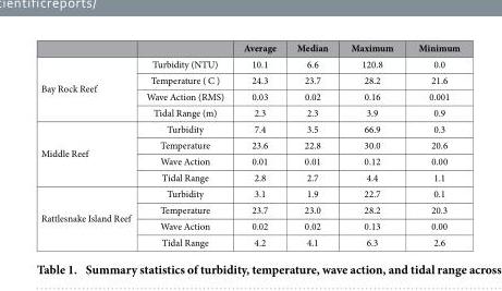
<table><thead><tr><td></td><td></td><td>Average</td><td>Median</td><td>Maximum</td><td>Minimum</td></tr></thead><tbody><tr><td rowspan="4">Bay Rock Reef</td><td>Turbidity (NTU)</td><td>10.1</td><td>6.6</td><td>120.8</td><td>0.0</td></tr><tr><td>Temperature ( C )</td><td>24.3</td><td>23.7</td><td>28.2</td><td>21.6</td></tr><tr><td>Wave Action (RMS)</td><td>0.03</td><td>0.02</td><td>0.16</td><td>0.001</td></tr><tr><td>Tidal Range (m)</td><td>2.3</td><td>2.3</td><td>3.9</td><td>0.9</td></tr><tr><td rowspan="4">Middle Reef</td><td>Turbidity</td><td>7.4</td><td>3.5</td><td>66.9</td><td>0.3</td></tr><tr><td>Temperature</td><td>23.6</td><td>22.8</td><td>30.0</td><td>20.6</td></tr><tr><td>Wave Action</td><td>0.01</td><td>0.01</td><td>0.12</td><td>0.00</td></tr><tr><td>Tidal Range</td><td>2.8</td><td>2.7</td><td>4.4</td><td>1.1</td></tr><tr><td rowspan="4">Rattlesnake Island Reef</td><td>Turbidity</td><td>3.1</td><td>1.9</td><td>22.7</td><td>0.1</td></tr><tr><td>Temperature</td><td>23.7</td><td>23.0</td><td>28.2</td><td>20.3</td></tr><tr><td>Wave Action</td><td>0.02</td><td>0.02</td><td>0.13</td><td>0.00</td></tr><tr><td>Tidal Range</td><td>4.2</td><td>4.1</td><td>6.3</td><td>2.6</td></tr></tbody></table>